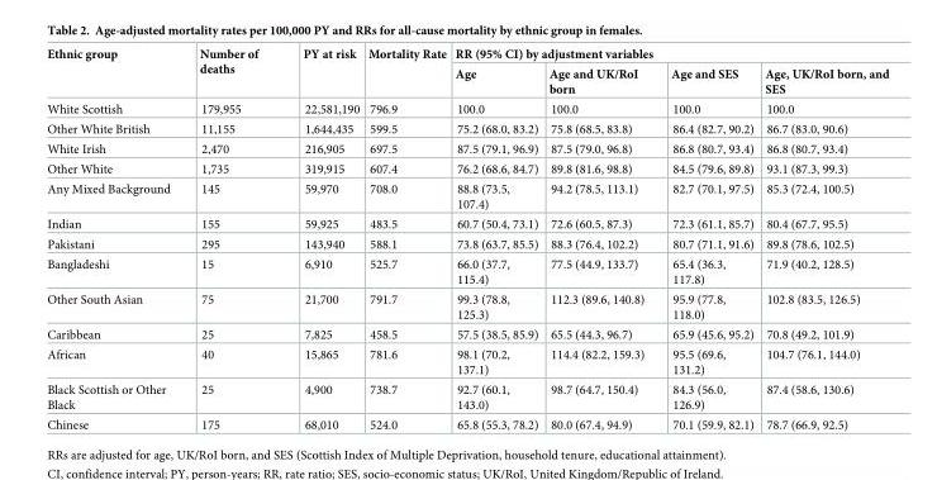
<table><thead><tr><td rowspan="2">Ethnic group</td><td rowspan="2">Number of deaths</td><td rowspan="2">PY at risk</td><td rowspan="2">Mortality Rate</td><td colspan="4">RR (95% CI) by adjustment variables</td></tr><tr><td>Age</td><td>Age and UK/RoI born</td><td>Age and SES</td><td>Age, UK/RoI born, and SES</td></tr></thead><tbody><tr><td>White Scottish</td><td>179,955</td><td>22,581,190</td><td>796.9</td><td>100.0</td><td>100.0</td><td>100.0</td><td>100.0</td></tr><tr><td>Other White British</td><td>11,155</td><td>1,644,435</td><td>599.5</td><td>75.2 (68.0, 83.2)</td><td>75.8 (68.5, 83.8)</td><td>86.4 (82.7, 90.2)</td><td>86.7 (83.0, 90.6)</td></tr><tr><td>White Irish</td><td>2,470</td><td>216,905</td><td>697.5</td><td>87.5 (79.1, 96.9)</td><td>87.5 (79.0, 96.8)</td><td>86.8 (80.7, 93.4)</td><td>86.8 (80.7, 93.4)</td></tr><tr><td>Other White</td><td>1,735</td><td>319,915</td><td>607.4</td><td>76.2 (68.6, 84.7)</td><td>89.8 (81.6, 98.8)</td><td>84.5 (79.6, 89.8)</td><td>93.1 (87.3, 99.3)</td></tr><tr><td>Any Mixed Background</td><td>145</td><td>59,970</td><td>708.0</td><td>88.8 (73.5, 107.4)</td><td>94.2 (78.5, 113.1)</td><td>82.7 (70.1, 97.5)</td><td>85.3 (72.4, 100.5)</td></tr><tr><td>Indian</td><td>155</td><td>59,925</td><td>483.5</td><td>60.7 (50.4, 73.1)</td><td>72.6 (60.5, 87.3)</td><td>72.3 (61.1, 85.7)</td><td>80.4 (67.7, 95.5)</td></tr><tr><td>Pakistani</td><td>295</td><td>143,940</td><td>588.1</td><td>73.8 (63.7, 85.5)</td><td>88.3 (76.4, 102.2)</td><td>80.7 (71.1, 91.6)</td><td>89.8 (78.6, 102.5)</td></tr><tr><td>Bangladeshi</td><td>15</td><td>6,910</td><td>525.7</td><td>66.0 (37.7, 115.4)</td><td>77.5 (44.9, 133.7)</td><td>65.4 (36.3, 117.8)</td><td>71.9 (40.2, 128.5)</td></tr><tr><td>Other South Asian</td><td>75</td><td>21,700</td><td>791.7</td><td>99.3 (78.8, 125.3)</td><td>112.3 (89.6, 140.8)</td><td>95.9 (77.8, 118.0)</td><td>102.8 (83.5, 126.5)</td></tr><tr><td>Caribbean</td><td>25</td><td>7,825</td><td>458.5</td><td>57.5 (38.5, 85.9)</td><td>65.5 (44.3, 96.7)</td><td>65.9 (45.6, 95.2)</td><td>70.8 (49.2, 101.9)</td></tr><tr><td>African</td><td>40</td><td>15,865</td><td>781.6</td><td>98.1 (70.2, 137.1)</td><td>114.4 (82.2, 159.3)</td><td>95.5 (69.6, 131.2)</td><td>104.7 (76.1, 144.0)</td></tr><tr><td>Black Scottish or Other Black</td><td>25</td><td>4,900</td><td>738.7</td><td>92.7 (60.1, 143.0)</td><td>98.7 (64.7, 150.4)</td><td>84.3 (56.0, 126.9)</td><td>87.4 (58.6, 130.6)</td></tr><tr><td>Chinese</td><td>175</td><td>68,010</td><td>524.0</td><td>65.8 (55.3, 78.2)</td><td>80.0 (67.4, 94.9)</td><td>70.1 (59.9, 82.1)</td><td>78.7 (66.9, 92.5)</td></tr></tbody></table>